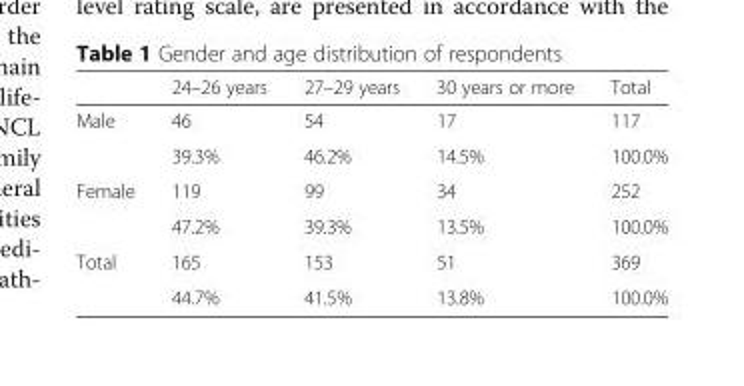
<table><thead><tr><td></td><td>24–26 years</td><td>27–29 years</td><td>30 years or more</td><td>Total</td></tr></thead><tbody><tr><td rowspan="2">Male</td><td>46</td><td>54</td><td>17</td><td>117</td></tr><tr><td>39.3%</td><td>46.2%</td><td>14.5%</td><td>100.0%</td></tr><tr><td rowspan="2">Female</td><td>119</td><td>99</td><td>34</td><td>252</td></tr><tr><td>47.2%</td><td>39.3%</td><td>13.5%</td><td>100.0%</td></tr><tr><td rowspan="2">Total</td><td>165</td><td>153</td><td>51</td><td>369</td></tr><tr><td>44.7%</td><td>41.5%</td><td>13.8%</td><td>100.0%</td></tr></tbody></table>